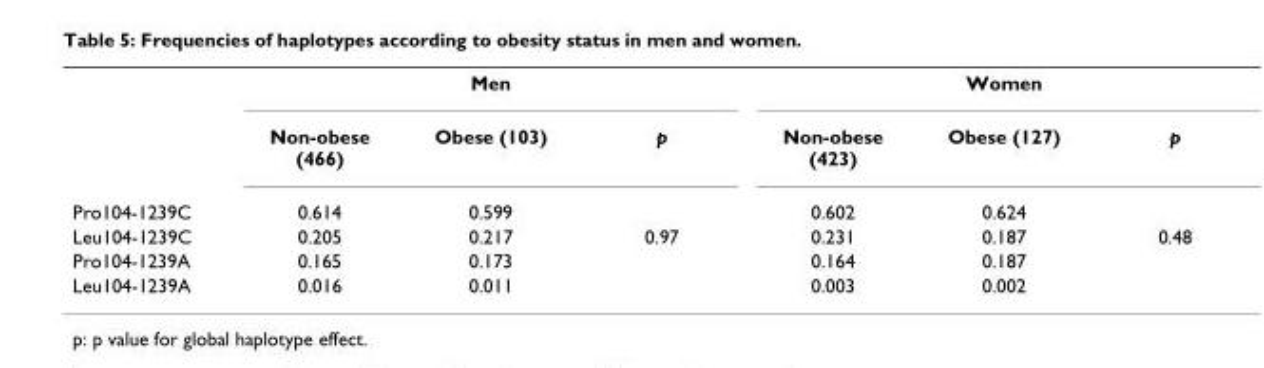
<table><thead><tr><td rowspan="2"></td><td colspan="3">Men</td><td colspan="3">Women</td></tr><tr><td>Non-obese (466)</td><td>Obese (103)</td><td>p</td><td>Non-obese (423)</td><td>Obese (127)</td><td>p</td></tr></thead><tbody><tr><td>Pro104-1239C</td><td>0.614</td><td>0.599</td><td></td><td>0.602</td><td>0.624</td><td></td></tr><tr><td>Leu104-1239C</td><td>0.205</td><td>0.217</td><td>0.97</td><td>0.231</td><td>0.187</td><td>0.48</td></tr><tr><td>Pro104-1239A</td><td>0.165</td><td>0.173</td><td></td><td>0.164</td><td>0.187</td><td></td></tr><tr><td>Leu104-1239A</td><td>0.016</td><td>0.011</td><td></td><td>0.003</td><td>0.002</td><td></td></tr></tbody></table>